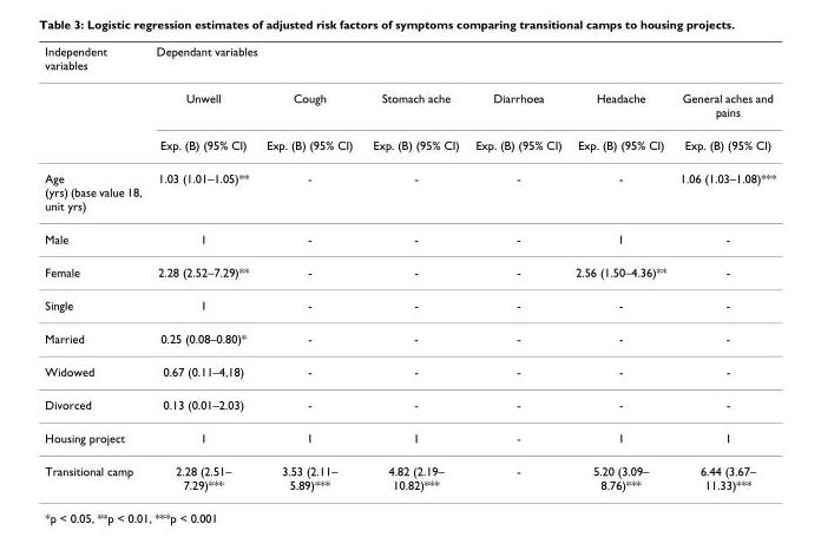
<table><thead><tr><td rowspan="2">Independent variables</td><td colspan="6">Dependant variables</td></tr><tr><td>Unwell</td><td>Cough</td><td>Stomach ache</td><td>Diarrhoea</td><td>Headache</td><td>General aches and pains</td></tr></thead><tbody><tr><td></td><td>Exp. (B) (95% CI)</td><td>Exp. (B) (95% CI)</td><td>Exp. (B) (95% CI)</td><td>Exp. (B) (95% CI)</td><td>Exp. (B) (95% CI)</td><td>Exp. (B) (95% CI)</td></tr><tr><td>Age (yrs) (base value 18, unit yrs)</td><td>1.03 (1.01–1.05)**</td><td>-</td><td>-</td><td>-</td><td>-</td><td>1.06 (1.03–1.08)***</td></tr><tr><td>Male</td><td>1</td><td>-</td><td>-</td><td>-</td><td>1</td><td>-</td></tr><tr><td>Female</td><td>2.28 (2.52–7.29)**</td><td>-</td><td>-</td><td>-</td><td>2.56 (1.50–4.36)**</td><td>-</td></tr><tr><td>Single</td><td>1</td><td>-</td><td>-</td><td>-</td><td>-</td><td>-</td></tr><tr><td>Married</td><td>0.25 (0.08–0.80)*</td><td>-</td><td>-</td><td>-</td><td>-</td><td>-</td></tr><tr><td>Widowed</td><td>0.67 (0.11–4,18)</td><td>-</td><td>-</td><td>-</td><td>-</td><td>-</td></tr><tr><td>Divorced</td><td>0.13 (0.01–2.03)</td><td>-</td><td>-</td><td>-</td><td>-</td><td>-</td></tr><tr><td>Housing project</td><td>1</td><td>1</td><td>1</td><td>-</td><td>1</td><td>1</td></tr><tr><td>Transitional camp</td><td>2.28 (2.51– 7.29)***</td><td>3.53 (2.11– 5.89)***</td><td>4.82 (2.19– 10.82)***</td><td>-</td><td>5.20 (3.09– 8.76)***</td><td>6.44 (3.67– 11.33)***</td></tr></tbody></table>